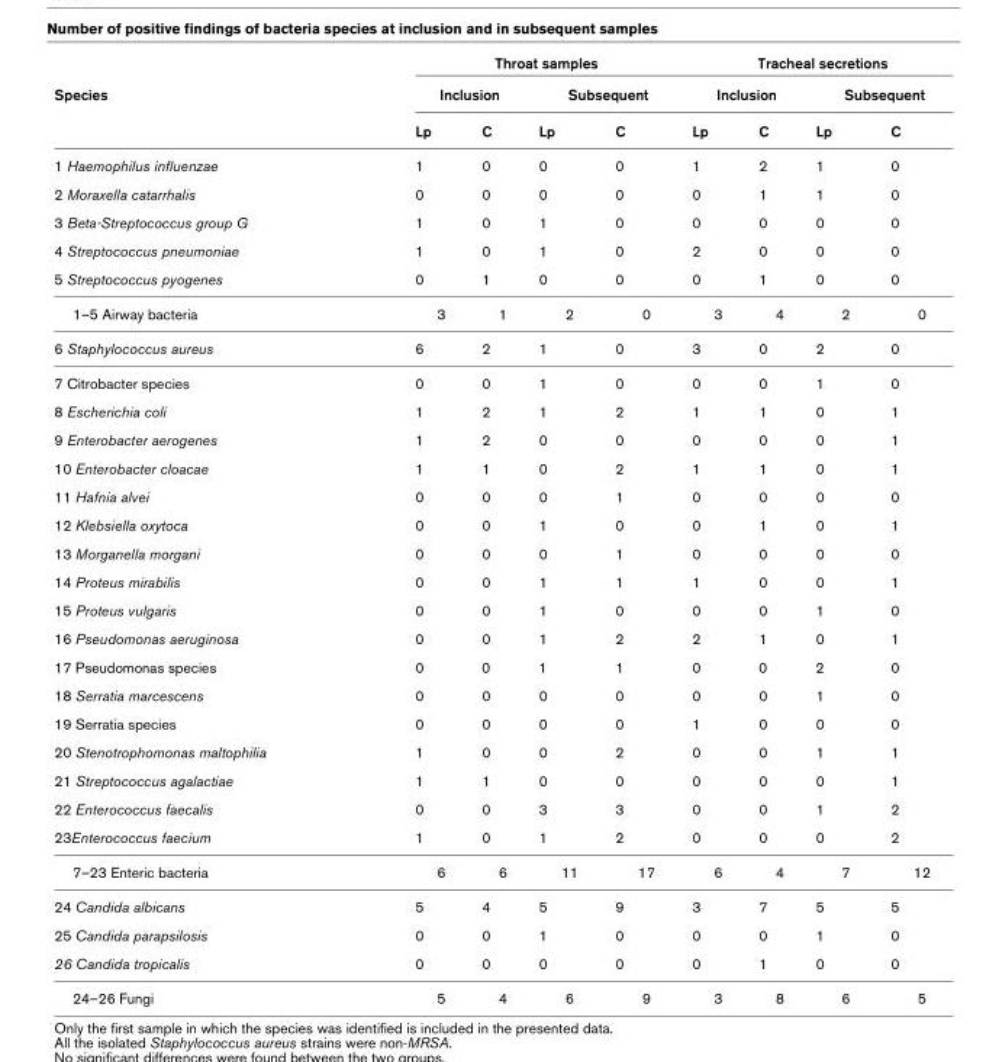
<table><thead><tr><td rowspan="3">Species</td><td colspan="4">Throat samples</td><td colspan="4">Tracheal secretions</td></tr><tr><td colspan="2">Inclusion</td><td colspan="2">Subsequent</td><td colspan="2">Inclusion</td><td colspan="2">Subsequent</td></tr><tr><td>Lp</td><td>C</td><td>Lp</td><td>C</td><td>Lp</td><td>C</td><td>Lp</td><td>C</td></tr></thead><tbody><tr><td>1 Haemophilus influenzae</td><td>1</td><td>0</td><td>0</td><td>0</td><td>1</td><td>2</td><td>1</td><td>0</td></tr><tr><td>2 Moraxella catarrhalis</td><td>0</td><td>0</td><td>0</td><td>0</td><td>0</td><td>1</td><td>1</td><td>0</td></tr><tr><td>3 Beta-Streptococcus group G</td><td>1</td><td>0</td><td>1</td><td>0</td><td>0</td><td>0</td><td>0</td><td>0</td></tr><tr><td>4 Streptococcus pneumoniae</td><td>1</td><td>0</td><td>1</td><td>0</td><td>2</td><td>0</td><td>0</td><td>0</td></tr><tr><td>5 Streptococcus pyogenes</td><td>0</td><td>1</td><td>0</td><td>0</td><td>0</td><td>1</td><td>0</td><td>0</td></tr><tr><td>1–5 Airway bacteria</td><td>3</td><td>1</td><td>2</td><td>0</td><td>3</td><td>4</td><td>2</td><td>0</td></tr><tr><td>6 Staphylococcus aureus</td><td>6</td><td>2</td><td>1</td><td>0</td><td>3</td><td>0</td><td>2</td><td>0</td></tr><tr><td>7 Citrobacter species</td><td>0</td><td>0</td><td>1</td><td>0</td><td>0</td><td>0</td><td>1</td><td>0</td></tr><tr><td>8 Escherichia coli</td><td>1</td><td>2</td><td>1</td><td>2</td><td>1</td><td>1</td><td>0</td><td>1</td></tr><tr><td>9 Enterobacter aerogenes</td><td>1</td><td>2</td><td>0</td><td>0</td><td>0</td><td>0</td><td>0</td><td>1</td></tr><tr><td>10 Enterobacter cloacae</td><td>1</td><td>1</td><td>0</td><td>2</td><td>1</td><td>1</td><td>0</td><td>1</td></tr><tr><td>11 Hafnia alvei</td><td>0</td><td>0</td><td>0</td><td>1</td><td>0</td><td>0</td><td>0</td><td>0</td></tr><tr><td>12 Klebsiella oxytoca</td><td>0</td><td>0</td><td>1</td><td>0</td><td>0</td><td>1</td><td>0</td><td>1</td></tr><tr><td>13 Morganella morgani</td><td>0</td><td>0</td><td>0</td><td>1</td><td>0</td><td>0</td><td>0</td><td>0</td></tr><tr><td>14 Proteus mirabilis</td><td>0</td><td>0</td><td>1</td><td>1</td><td>1</td><td>0</td><td>0</td><td>1</td></tr><tr><td>15 Proteus vulgaris</td><td>0</td><td>0</td><td>1</td><td>0</td><td>0</td><td>0</td><td>1</td><td>0</td></tr><tr><td>16 Pseudomonas aeruginosa</td><td>0</td><td>0</td><td>1</td><td>2</td><td>2</td><td>1</td><td>0</td><td>1</td></tr><tr><td>17 Pseudomonas species</td><td>0</td><td>0</td><td>1</td><td>1</td><td>0</td><td>0</td><td>2</td><td>0</td></tr><tr><td>18 Serratia marcescens</td><td>0</td><td>0</td><td>0</td><td>0</td><td>0</td><td>0</td><td>1</td><td>0</td></tr><tr><td>19 Serratia species</td><td>0</td><td>0</td><td>0</td><td>0</td><td>1</td><td>0</td><td>0</td><td>0</td></tr><tr><td>20 Stenotrophomonas maltophilia</td><td>1</td><td>0</td><td>0</td><td>2</td><td>0</td><td>0</td><td>1</td><td>1</td></tr><tr><td>21 Streptococcus agalactiae</td><td>1</td><td>1</td><td>0</td><td>0</td><td>0</td><td>0</td><td>0</td><td>1</td></tr><tr><td>22 Enterococcus faecalis</td><td>0</td><td>0</td><td>3</td><td>3</td><td>0</td><td>0</td><td>1</td><td>2</td></tr><tr><td>23Enterococcus faecium</td><td>1</td><td>0</td><td>1</td><td>2</td><td>0</td><td>0</td><td>0</td><td>2</td></tr><tr><td>7–23 Enteric bacteria</td><td>6</td><td>6</td><td>11</td><td>17</td><td>6</td><td>4</td><td>7</td><td>12</td></tr><tr><td>24 Candida albicans</td><td>5</td><td>4</td><td>5</td><td>9</td><td>3</td><td>7</td><td>5</td><td>5</td></tr><tr><td>25 Candida parapsilosis</td><td>0</td><td>0</td><td>1</td><td>0</td><td>0</td><td>0</td><td>1</td><td>0</td></tr><tr><td>26 Candida tropicalis</td><td>0</td><td>0</td><td>0</td><td>0</td><td>0</td><td>1</td><td>0</td><td>0</td></tr><tr><td>24–26 Fungi</td><td>5</td><td>4</td><td>6</td><td>9</td><td>3</td><td>8</td><td>6</td><td>5</td></tr></tbody></table>